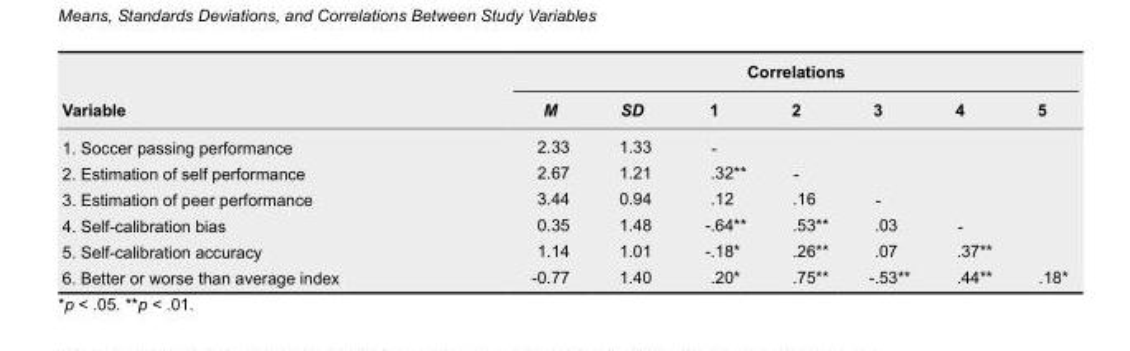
<table><thead><tr><td rowspan="2">Variable</td><td colspan="7">Correlations</td></tr><tr><td>M</td><td>SD</td><td>1</td><td>2</td><td>3</td><td>4</td><td>5</td></tr></thead><tbody><tr><td>1. Soccer passing performance</td><td>2.33</td><td>1.33</td><td>-</td><td></td><td></td><td></td><td></td></tr><tr><td>2. Estimation of self performance</td><td>2.67</td><td>1.21</td><td>.32**</td><td>-</td><td></td><td></td><td></td></tr><tr><td>3. Estimation of peer performance</td><td>3.44</td><td>0.94</td><td>.12</td><td>.16</td><td>-</td><td></td><td></td></tr><tr><td>4. Self-calibration bias</td><td>0.35</td><td>1.48</td><td>-.64**</td><td>.53**</td><td>.03</td><td>-</td><td></td></tr><tr><td>5. Self-calibration accuracy</td><td>1.14</td><td>1.01</td><td>-.18*</td><td>.26**</td><td>.07</td><td>.37**</td><td></td></tr><tr><td>6. Better or worse than average index</td><td>-0.77</td><td>1.40</td><td>.20*</td><td>.75**</td><td>-.53**</td><td>.44**</td><td>.18*</td></tr></tbody></table>